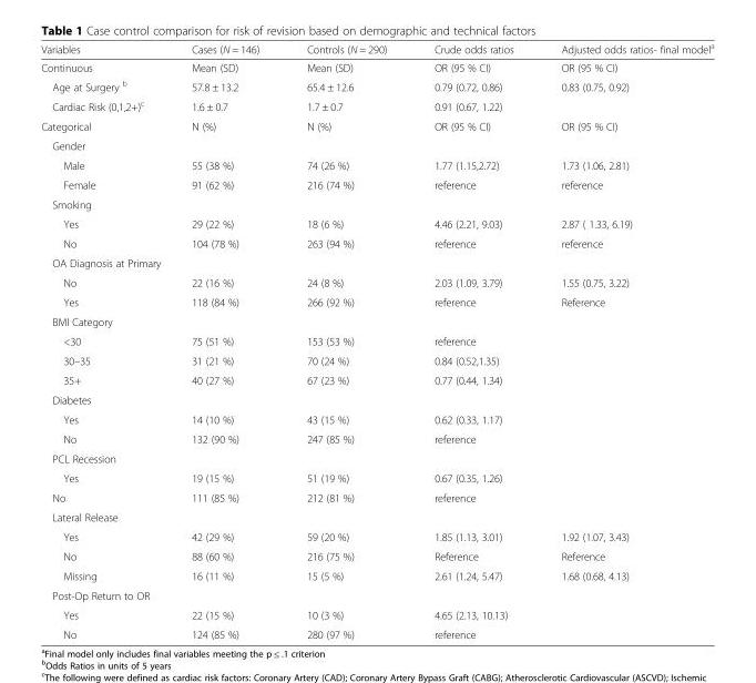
<table><thead><tr><td>Variables</td><td>Cases (N = 146)</td><td>Controls (N = 290)</td><td>Crude odds ratios</td><td>Adjusted odds ratios- final model<sup>a</sup></td></tr></thead><tbody><tr><td>Continuous</td><td>Mean (SD)</td><td>Mean (SD)</td><td>OR (95 % CI)</td><td>OR (95 % CI)</td></tr><tr><td>Age at Surgery <sup>b</sup></td><td>57.8 ± 13.2</td><td>65.4 ± 12.6</td><td>0.79 (0.72, 0.86)</td><td>0.83 (0.75, 0.92)</td></tr><tr><td>Cardiac Risk (0,1,2+)<sup>c</sup></td><td>1.6 ± 0.7</td><td>1.7 ± 0.7</td><td>0.91 (0.67, 1.22)</td><td></td></tr><tr><td>Categorical</td><td>N (%)</td><td>N (%)</td><td>OR (95 % CI)</td><td>OR (95 % CI)</td></tr><tr><td colspan="5">Gender</td></tr><tr><td>Male</td><td>55 (38 %)</td><td>74 (26 %)</td><td>1.77 (1.15,2.72)</td><td>1.73 (1.06, 2.81)</td></tr><tr><td>Female</td><td>91 (62 %)</td><td>216 (74 %)</td><td>reference</td><td>reference</td></tr><tr><td colspan="5">Smoking</td></tr><tr><td>Yes</td><td>29 (22 %)</td><td>18 (6 %)</td><td>4.46 (2.21, 9.03)</td><td>2.87 ( 1.33, 6.19)</td></tr><tr><td>No</td><td>104 (78 %)</td><td>263 (94 %)</td><td>reference</td><td>reference</td></tr><tr><td colspan="5">OA Diagnosis at Primary</td></tr><tr><td>No</td><td>22 (16 %)</td><td>24 (8 %)</td><td>2.03 (1.09, 3.79)</td><td>1.55 (0.75, 3.22)</td></tr><tr><td>Yes</td><td>118 (84 %)</td><td>266 (92 %)</td><td>reference</td><td>Reference</td></tr><tr><td colspan="5">BMI Category</td></tr><tr><td>&lt;30</td><td>75 (51 %)</td><td>153 (53 %)</td><td>reference</td><td rowspan="3"></td></tr><tr><td>30–35</td><td>31 (21 %)</td><td>70 (24 %)</td><td>0.84 (0.52,1.35)</td></tr><tr><td>35+</td><td>40 (27 %)</td><td>67 (23 %)</td><td>0.77 (0.44, 1.34)</td></tr><tr><td colspan="5">Diabetes</td></tr><tr><td>Yes</td><td>14 (10 %)</td><td>43 (15 %)</td><td>0.62 (0.33, 1.17)</td><td rowspan="2"></td></tr><tr><td>No</td><td>132 (90 %)</td><td>247 (85 %)</td><td>reference</td></tr><tr><td colspan="5">PCL Recession</td></tr><tr><td>Yes</td><td>19 (15 %)</td><td>51 (19 %)</td><td>0.67 (0.35, 1.26)</td><td rowspan="2"></td></tr><tr><td>No</td><td>111 (85 %)</td><td>212 (81 %)</td><td>reference</td></tr><tr><td colspan="5">Lateral Release</td></tr><tr><td>Yes</td><td>42 (29 %)</td><td>59 (20 %)</td><td>1.85 (1.13, 3.01)</td><td>1.92 (1.07, 3.43)</td></tr><tr><td>No</td><td>88 (60 %)</td><td>216 (75 %)</td><td>Reference</td><td>Reference</td></tr><tr><td>Missing</td><td>16 (11 %)</td><td>15 (5 %)</td><td>2.61 (1.24, 5.47)</td><td>1.68 (0.68, 4.13)</td></tr><tr><td colspan="5">Post-Op Return to OR</td></tr><tr><td>Yes</td><td>22 (15 %)</td><td>10 (3 %)</td><td>4.65 (2.13, 10.13)</td><td rowspan="2"></td></tr><tr><td>No</td><td>124 (85 %)</td><td>280 (97 %)</td><td>reference</td></tr></tbody></table>